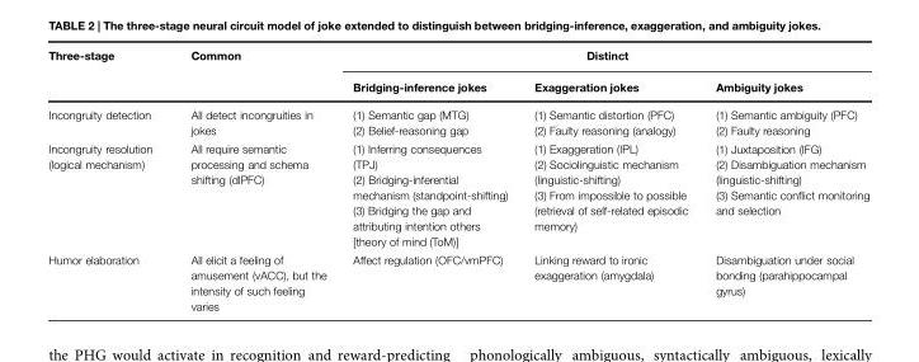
<table><thead><tr><td rowspan="2">Three-stage</td><td rowspan="2">Common</td><td colspan="3">Distinct</td></tr><tr><td>Bridging-inference jokes</td><td>Exaggeration jokes</td><td>Ambiguity jokes</td></tr></thead><tbody><tr><td>Incongruity detection</td><td>All detect incongruities in jokes</td><td>(1) Semantic gap (MTG) (2) Belief-reasoning gap</td><td>(1) Semantic distortion (PFC) (2) Faulty reasoning (analogy)</td><td>(1) Semantic ambiguity (PFC) (2) Faulty reasoning</td></tr><tr><td>Incongruity resolution (logical mechanism)</td><td>All require semantic processing and schema shifting (dlPFC)</td><td>(1) Inferring consequences (TPJ) (2) Bridging-inferential mechanism (standpoint-shifting) (3) Bridging the gap and attributing intention others [theory of mind (ToM)]</td><td>(1) Exaggeration (IPL) (2) Sociolinguistic mechanism (linguistic-shifting) (3) From impossible to possible (retrieval of self-related episodic memory)</td><td>(1) Juxtaposition (IFG) (2) Disambiguation mechanism (linguistic-shifting) (3) Semantic conflict monitoring and selection</td></tr><tr><td>Humor elaboration</td><td>All elicit a feeling of amusement (vACC), but the intensity of such feeling varies</td><td>Affect regulation (OFC/vmPFC)</td><td>Linking reward to ironic exaggeration (amygdala)</td><td>Disambiguation under social bonding (parahippocampal gyrus)</td></tr></tbody></table>